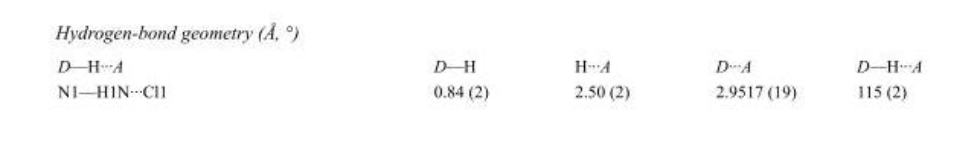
<table><tbody><tr><td>D—H···A</td><td>D—H</td><td>H···A</td><td>D···A</td><td>D—H···A</td></tr><tr><td>N1—H1N···Cl1</td><td>0.84 (2)</td><td>2.50 (2)</td><td>2.9517 (19)</td><td>115 (2)</td></tr></tbody></table>